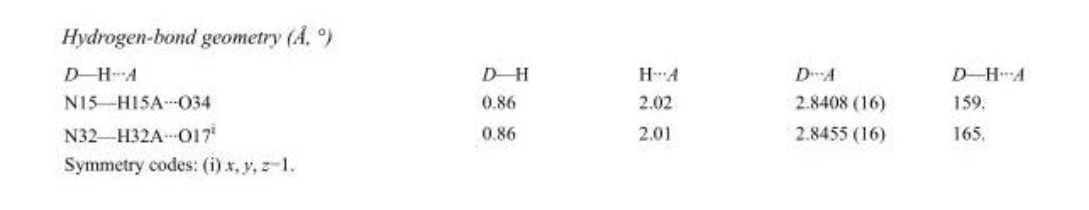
<table><tbody><tr><td>D—H···A</td><td>D—H</td><td>H···A</td><td>D···A</td><td>D—H···A</td></tr><tr><td>N15—H15A···O34</td><td>0.86</td><td>2.02</td><td>2.8408 (16)</td><td>159.</td></tr><tr><td>N32—H32A···O17<sup>i</sup></td><td>0.86</td><td>2.01</td><td>2.8455 (16)</td><td>165.</td></tr></tbody></table>